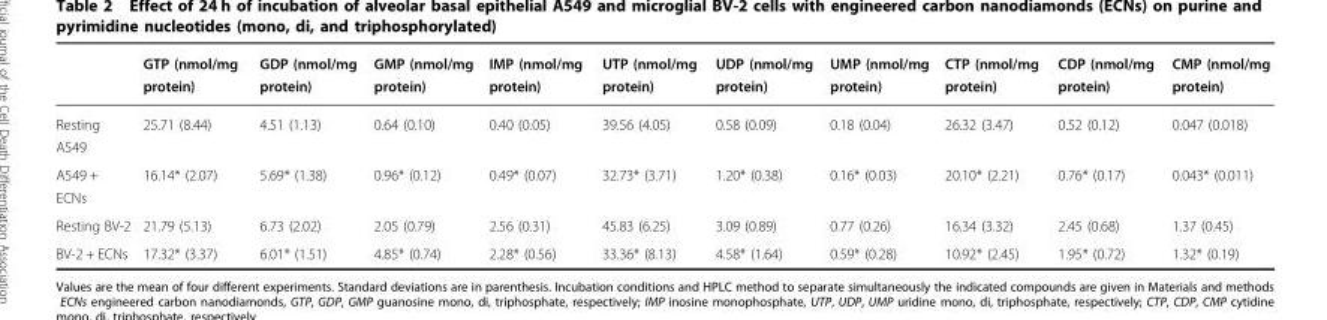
<table><thead><tr><td></td><td>GTP (nmol/mg protein)</td><td>GDP (nmol/mg protein)</td><td>GMP (nmol/mg protein)</td><td>IMP (nmol/mg protein)</td><td>UTP (nmol/mg protein)</td><td>UDP (nmol/mg protein)</td><td>UMP (nmol/mg protein)</td><td>CTP (nmol/mg protein)</td><td>CDP (nmol/mg protein)</td><td>CMP (nmol/mg protein)</td></tr></thead><tbody><tr><td>Resting A549</td><td>25.71 (8.44)</td><td>4.51 (1.13)</td><td>0.64 (0.10)</td><td>0.40 (0.05)</td><td>39.56 (4.05)</td><td>0.58 (0.09)</td><td>0.18 (0.04)</td><td>26.32 (3.47)</td><td>0.52 (0.12)</td><td>0.047 (0.018)</td></tr><tr><td>A549 + ECNs</td><td>16.14* (2.07)</td><td>5.69* (1.38)</td><td>0.96* (0.12)</td><td>0.49* (0.07)</td><td>32.73* (3.71)</td><td>1.20* (0.38)</td><td>0.16* (0.03)</td><td>20.10* (2.21)</td><td>0.76* (0.17)</td><td>0.043* (0.011)</td></tr><tr><td>Resting BV-2</td><td>21.79 (5.13)</td><td>6.73 (2.02)</td><td>2.05 (0.79)</td><td>2.56 (0.31)</td><td>45.83 (6.25)</td><td>3.09 (0.89)</td><td>0.77 (0.26)</td><td>16.34 (3.32)</td><td>2.45 (0.68)</td><td>1.37 (0.45)</td></tr><tr><td>BV-2 + ECNs</td><td>17.32* (3.37)</td><td>6.01* (1.51)</td><td>4.85* (0.74)</td><td>2.28* (0.56)</td><td>33.36* (8.13)</td><td>4.58* (1.64)</td><td>0.59* (0.28)</td><td>10.92* (2.45)</td><td>1.95* (0.72)</td><td>1.32* (0.19)</td></tr></tbody></table>